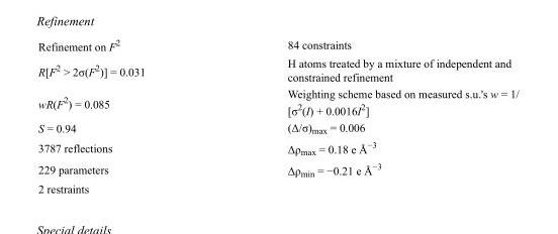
<table><tbody><tr><td>Refinement on F<sup>2</sup></td><td>84 constraints</td></tr><tr><td>R[F<sup>2</sup> &gt; 2σ(F<sup>2</sup>)] = 0.031</td><td>H atoms treated by a mixture of independent and constrained refinement</td></tr><tr><td>wR(F<sup>2</sup>) = 0.085</td><td>Weighting scheme based on measured s.u.&#x27;s w = 1/ [σ<sup>2</sup>(I) + 0.0016I<sup>2</sup>]</td></tr><tr><td>S = 0.94</td><td>(Δ/σ)<sub>max</sub> = 0.006</td></tr><tr><td>3787 reflections</td><td>Δρ<sub>max</sub> = 0.18 e Å<sup>−3</sup></td></tr><tr><td>229 parameters</td><td>Δρ<sub>min</sub> = −0.21 e Å<sup>−3</sup></td></tr><tr><td>2 restraints</td><td></td></tr></tbody></table>